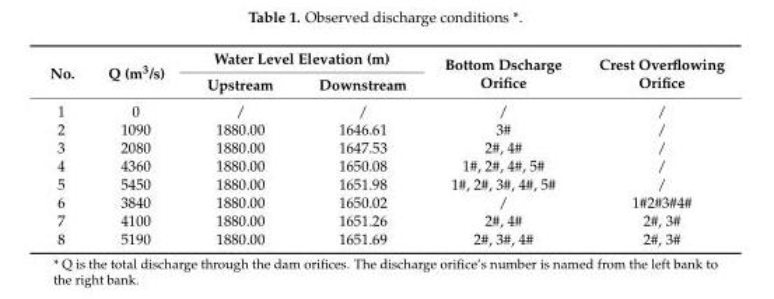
<table><thead><tr><td rowspan="2">No.</td><td rowspan="2">Q (m<sup>3</sup>/s)</td><td colspan="2">Water Level Elevation (m)</td><td rowspan="2">Bottom Dscharge Orifice</td><td rowspan="2">Crest Overflowing Orifice</td></tr><tr><td>Upstream</td><td>Downstream</td></tr></thead><tbody><tr><td>1</td><td>0</td><td>/</td><td>/</td><td>/</td><td>/</td></tr><tr><td>2</td><td>1090</td><td>1880.00</td><td>1646.61</td><td>3#</td><td>/</td></tr><tr><td>3</td><td>2080</td><td>1880.00</td><td>1647.53</td><td>2#, 4#</td><td>/</td></tr><tr><td>4</td><td>4360</td><td>1880.00</td><td>1650.08</td><td>1#, 2#, 4#, 5#</td><td>/</td></tr><tr><td>5</td><td>5450</td><td>1880.00</td><td>1651.98</td><td>1#, 2#, 3#, 4#, 5#</td><td>/</td></tr><tr><td>6</td><td>3840</td><td>1880.00</td><td>1650.02</td><td>/</td><td>1#2#3#4#</td></tr><tr><td>7</td><td>4100</td><td>1880.00</td><td>1651.26</td><td>2#, 4#</td><td>2#, 3#</td></tr><tr><td>8</td><td>5190</td><td>1880.00</td><td>1651.69</td><td>2#, 3#, 4#</td><td>2#, 3#</td></tr></tbody></table>